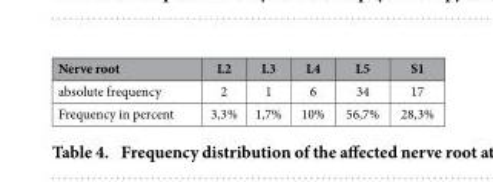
<table><thead><tr><td>Nerve root</td><td>L2</td><td>L3</td><td>L4</td><td>L5</td><td>S1</td></tr></thead><tbody><tr><td>absolute frequency</td><td>2</td><td>1</td><td>6</td><td>34</td><td>17</td></tr><tr><td>Frequency in percent</td><td>3,3%</td><td>1,7%</td><td>10%</td><td>56,7%</td><td>28,3%</td></tr></tbody></table>